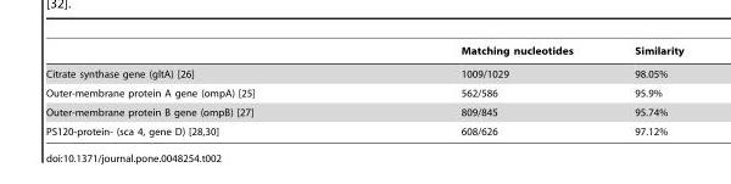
<table><thead><tr><td></td><td>Matching nucleotides</td><td>Similarity</td></tr></thead><tbody><tr><td>Citrate synthase gene (gltA) [26]</td><td>1009/1029</td><td>98.05%</td></tr><tr><td>Outer-membrane protein A gene (ompA) [25]</td><td>562/586</td><td>95.9%</td></tr><tr><td>Outer-membrane protein B gene (ompB) [27]</td><td>809/845</td><td>95.74%</td></tr><tr><td>PS120-protein- (sca 4, gene D) [28,30]</td><td>608/626</td><td>97.12%</td></tr></tbody></table>